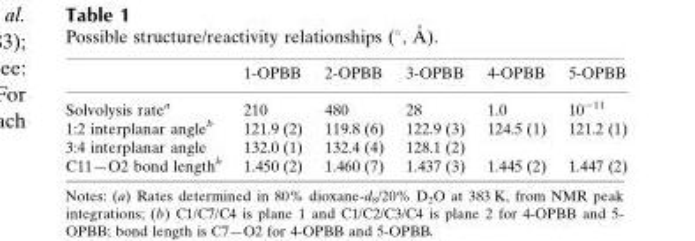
<table><thead><tr><td></td><td>1-OPBB</td><td>2-OPBB</td><td>3-OPBB</td><td>4-OPBB</td><td>5-OPBB</td></tr></thead><tbody><tr><td>Solvolysis ratea</td><td>210</td><td>480</td><td>28</td><td>1.0</td><td>10<sup>−11</sup></td></tr><tr><td>1:2 interplanar angleb</td><td>121.9 (2)</td><td>119.8 (6)</td><td>122.9 (3)</td><td>124.5 (1)</td><td>121.2 (1)</td></tr><tr><td>3:4 interplanar angle</td><td>132.0 (1)</td><td>132.4 (4)</td><td>128.1 (2)</td><td></td><td></td></tr><tr><td>C11—O2 bond lengthb</td><td>1.450 (2)</td><td>1.460 (7)</td><td>1.437 (3)</td><td>1.445 (2)</td><td>1.447 (2)</td></tr></tbody></table>